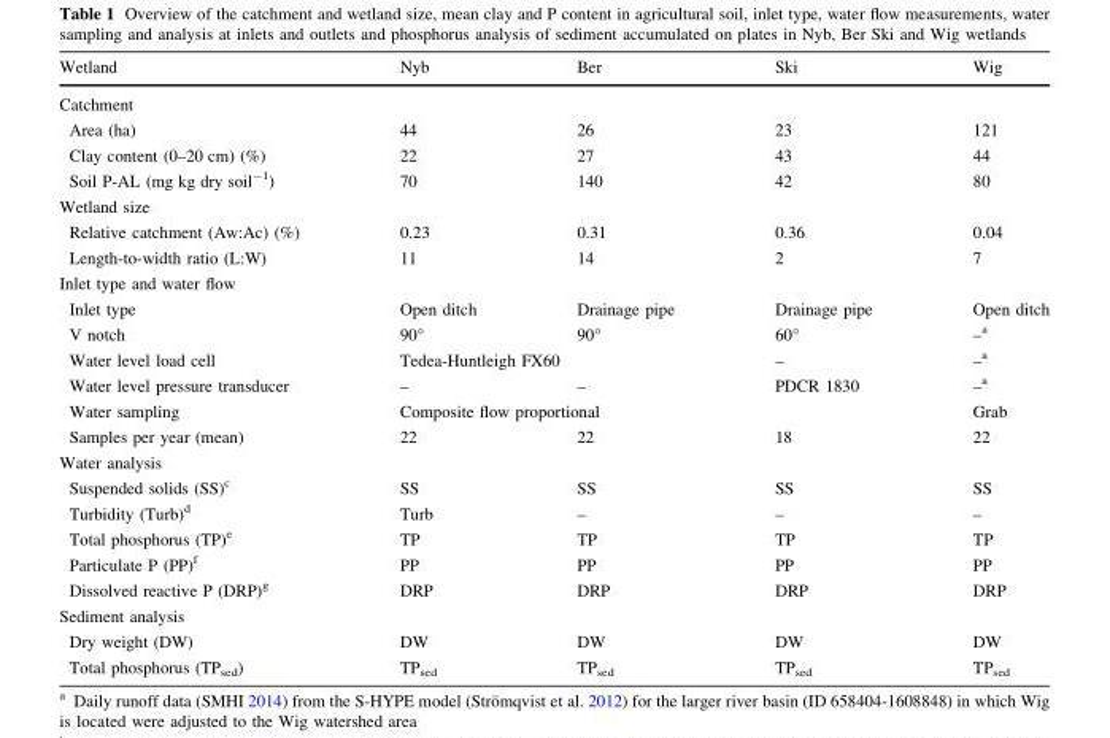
<table><thead><tr><td>Wetland</td><td>Nyb</td><td>Ber</td><td>Ski</td><td>Wig</td></tr></thead><tbody><tr><td colspan="5">Catchment</td></tr><tr><td>Area (ha)</td><td>44</td><td>26</td><td>23</td><td>121</td></tr><tr><td>Clay content (0–20 cm) (%)</td><td>22</td><td>27</td><td>43</td><td>44</td></tr><tr><td>Soil P-AL (mg kg dry soil<sup>-1</sup>)</td><td>70</td><td>140</td><td>42</td><td>80</td></tr><tr><td colspan="5">Wetland size</td></tr><tr><td>Relative catchment (Aw:Ac) (%)</td><td>0.23</td><td>0.31</td><td>0.36</td><td>0.04</td></tr><tr><td>Length-to-width ratio (L:W)</td><td>11</td><td>14</td><td>2</td><td>7</td></tr><tr><td colspan="5">Inlet type and water flow</td></tr><tr><td>Inlet type</td><td>Open ditch</td><td>Drainage pipe</td><td>Drainage pipe</td><td>Open ditch</td></tr><tr><td>V notch</td><td>90°</td><td>90°</td><td>60°</td><td>–<sup>a</sup></td></tr><tr><td>Water level load cell</td><td colspan="2">Tedea-Huntleigh FX60</td><td>–</td><td>–<sup>a</sup></td></tr><tr><td>Water level pressure transducer</td><td>–</td><td>–</td><td>PDCR 1830</td><td>–<sup>a</sup></td></tr><tr><td>Water sampling</td><td colspan="3">Composite flow proportional</td><td>Grab</td></tr><tr><td>Samples per year (mean)</td><td>22</td><td>22</td><td>18</td><td>22</td></tr><tr><td colspan="5">Water analysis</td></tr><tr><td>Suspended solids (SS)<sup>c</sup></td><td>SS</td><td>SS</td><td>SS</td><td>SS</td></tr><tr><td>Turbidity (Turb)<sup>d</sup></td><td>Turb</td><td>–</td><td>–</td><td>–</td></tr><tr><td>Total phosphorus (TP)<sup>e</sup></td><td>TP</td><td>TP</td><td>TP</td><td>TP</td></tr><tr><td>Particulate P (PP)<sup>f</sup></td><td>PP</td><td>PP</td><td>PP</td><td>PP</td></tr><tr><td>Dissolved reactive P (DRP)<sup>g</sup></td><td>DRP</td><td>DRP</td><td>DRP</td><td>DRP</td></tr><tr><td colspan="5">Sediment analysis</td></tr><tr><td>Dry weight (DW)</td><td>DW</td><td>DW</td><td>DW</td><td>DW</td></tr><tr><td>Total phosphorus (TP<sub>sed</sub>)</td><td>TP<sub>sed</sub></td><td>TP<sub>sed</sub></td><td>TP<sub>sed</sub></td><td>TP<sub>sed</sub></td></tr></tbody></table>